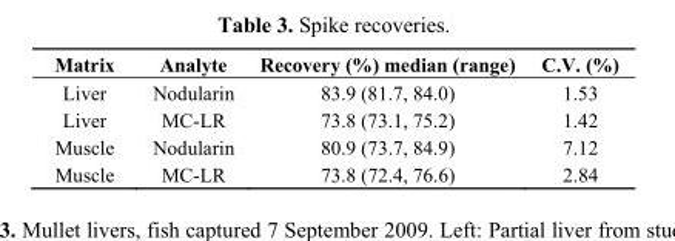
<table><thead><tr><td>Matrix</td><td>Analyte</td><td>Recovery (%) median (range)</td><td>C.V. (%)</td></tr></thead><tbody><tr><td>Liver</td><td>Nodularin</td><td>83.9 (81.7, 84.0)</td><td>1.53</td></tr><tr><td>Liver</td><td>MC-LR</td><td>73.8 (73.1, 75.2)</td><td>1.42</td></tr><tr><td>Muscle</td><td>Nodularin</td><td>80.9 (73.7, 84.9)</td><td>7.12</td></tr><tr><td>Muscle</td><td>MC-LR</td><td>73.8 (72.4, 76.6)</td><td>2.84</td></tr></tbody></table>